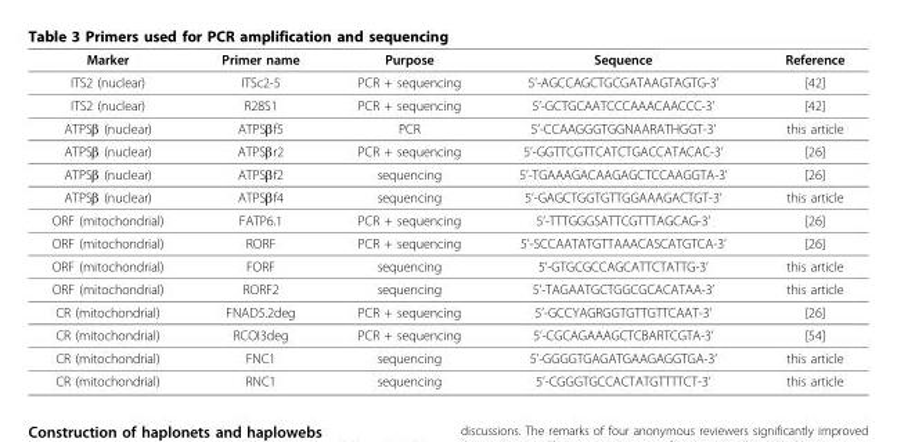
<table><thead><tr><td>Marker</td><td>Primer name</td><td>Purpose</td><td>Sequence</td><td>Reference</td></tr></thead><tbody><tr><td>ITS2 (nuclear)</td><td>ITSc2-5</td><td>PCR + sequencing</td><td>5’-AGCCAGCTGCGATAAGTAGTG-3’</td><td>[42]</td></tr><tr><td>ITS2 (nuclear)</td><td>R28S1</td><td>PCR + sequencing</td><td>5’-GCTGCAATCCCAAACAACCC-3’</td><td>[42]</td></tr><tr><td>ATPSβ (nuclear)</td><td>ATPSβf5</td><td>PCR</td><td>5’-CCAAGGGTGGNAARATHGGT-3’</td><td>this article</td></tr><tr><td>ATPSβ (nuclear)</td><td>ATPSβr2</td><td>PCR + sequencing</td><td>5’-GGTTCGTTCATCTGACCATACAC-3’</td><td>[26]</td></tr><tr><td>ATPSβ (nuclear)</td><td>ATPSβf2</td><td>sequencing</td><td>5’-TGAAAGACAAGAGCTCCAAGGTA-3’</td><td>[26]</td></tr><tr><td>ATPSβ (nuclear)</td><td>ATPSβf4</td><td>sequencing</td><td>5’-GAGCTGGTGTTGGAAAGACTGT-3’</td><td>this article</td></tr><tr><td>ORF (mitochondrial)</td><td>FATP6.1</td><td>PCR + sequencing</td><td>5’-TTTGGGSATTCGTTTAGCAG-3’</td><td>[26]</td></tr><tr><td>ORF (mitochondrial)</td><td>RORF</td><td>PCR + sequencing</td><td>5’-SCCAATATGTTAAACASCATGTCA-3’</td><td>[26]</td></tr><tr><td>ORF (mitochondrial)</td><td>FORF</td><td>sequencing</td><td>5’-GTGCGCCAGCATTCTATTG-3’</td><td>this article</td></tr><tr><td>ORF (mitochondrial)</td><td>RORF2</td><td>sequencing</td><td>5’-TAGAATGCTGGCGCACATAA-3’</td><td>this article</td></tr><tr><td>CR (mitochondrial)</td><td>FNAD5.2deg</td><td>PCR + sequencing</td><td>5’-GCCYAGRGGTGTTGTTCAAT-3’</td><td>[26]</td></tr><tr><td>CR (mitochondrial)</td><td>RCOI3deg</td><td>PCR + sequencing</td><td>5’-CGCAGAAAGCTCBARTCGTA-3’</td><td>[54]</td></tr><tr><td>CR (mitochondrial)</td><td>FNC1</td><td>sequencing</td><td>5’-GGGGTGAGATGAAGAGGTGA-3’</td><td>this article</td></tr><tr><td>CR (mitochondrial)</td><td>RNC1</td><td>sequencing</td><td>5’-CGGGTGCCACTATGTTTTCT-3’</td><td>this article</td></tr></tbody></table>